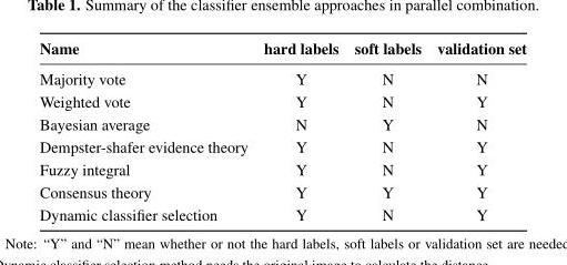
<table><thead><tr><td>Name</td><td>hard labels</td><td>soft labels</td><td>validation set</td></tr></thead><tbody><tr><td>Majority vote</td><td>Y</td><td>N</td><td>N</td></tr><tr><td>Weighted vote</td><td>Y</td><td>N</td><td>Y</td></tr><tr><td>Bayesian average</td><td>N</td><td>Y</td><td>N</td></tr><tr><td>Dempster-shafer evidence theory</td><td>Y</td><td>N</td><td>Y</td></tr><tr><td>Fuzzy integral</td><td>Y</td><td>N</td><td>Y</td></tr><tr><td>Consensus theory</td><td>Y</td><td>Y</td><td>Y</td></tr><tr><td>Dynamic classifier selection</td><td>Y</td><td>N</td><td>Y</td></tr></tbody></table>